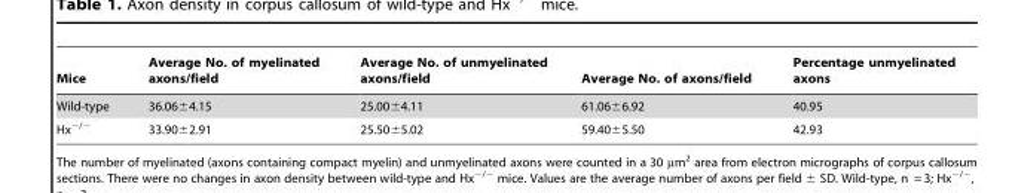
<table><thead><tr><td>Mice</td><td>Average No. of myelinated axons/field</td><td>Average No. of unmyelinated axons/field</td><td>Average No. of axons/field</td><td>Percentage unmyelinated axons</td></tr></thead><tbody><tr><td>Wild-type</td><td>36.06±4.15</td><td>25.00±4.11</td><td>61.06±6.92</td><td>40.95</td></tr><tr><td>Hx<sup>−/−</sup></td><td>33.90±2.91</td><td>25.50±5.02</td><td>59.40±5.50</td><td>42.93</td></tr></tbody></table>